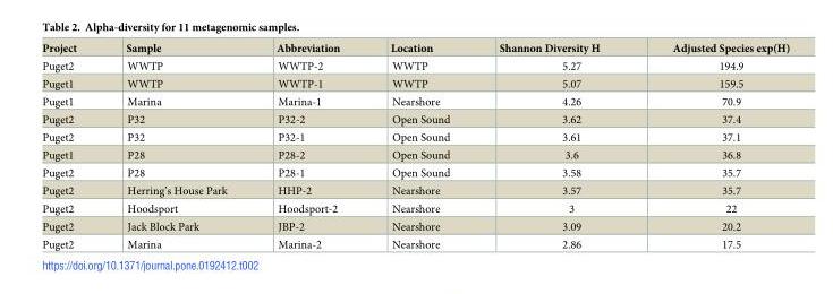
<table><thead><tr><td>Project</td><td>Sample</td><td>Abbreviation</td><td>Location</td><td>Shannon Diversity H</td><td>Adjusted Species exp(H)</td></tr></thead><tbody><tr><td>Puget2</td><td>WWTP</td><td>WWTP-2</td><td>WWTP</td><td>5.27</td><td>194.9</td></tr><tr><td>Puget1</td><td>WWTP</td><td>WWTP-1</td><td>WWTP</td><td>5.07</td><td>159.5</td></tr><tr><td>Puget1</td><td>Marina</td><td>Marina-1</td><td>Nearshore</td><td>4.26</td><td>70.9</td></tr><tr><td>Puget2</td><td>P32</td><td>P32-2</td><td>Open Sound</td><td>3.62</td><td>37.4</td></tr><tr><td>Puget2</td><td>P32</td><td>P32-1</td><td>Open Sound</td><td>3.61</td><td>37.1</td></tr><tr><td>Puget1</td><td>P28</td><td>P28-2</td><td>Open Sound</td><td>3.6</td><td>36.8</td></tr><tr><td>Puget2</td><td>P28</td><td>P28-1</td><td>Open Sound</td><td>3.58</td><td>35.7</td></tr><tr><td>Puget2</td><td>Herring’s House Park</td><td>HHP-2</td><td>Nearshore</td><td>3.57</td><td>35.7</td></tr><tr><td>Puget2</td><td>Hoodsport</td><td>Hoodsport-2</td><td>Nearshore</td><td>3</td><td>22</td></tr><tr><td>Puget2</td><td>Jack Block Park</td><td>JBP-2</td><td>Nearshore</td><td>3.09</td><td>20.2</td></tr><tr><td>Puget2</td><td>Marina</td><td>Marina-2</td><td>Nearshore</td><td>2.86</td><td>17.5</td></tr></tbody></table>